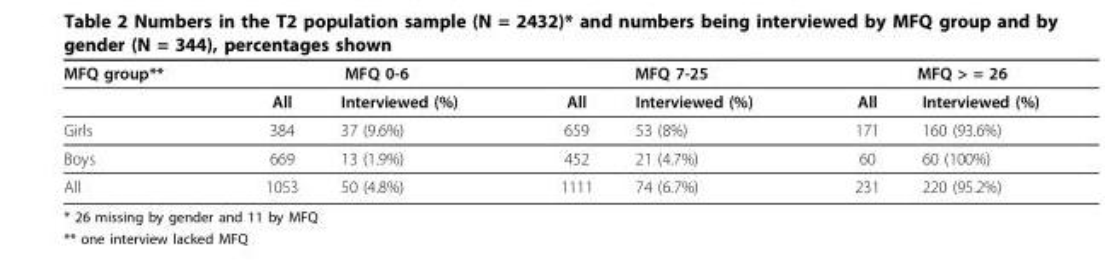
<table><thead><tr><td rowspan="2">MFQ group**</td><td colspan="2">MFQ 0-6</td><td colspan="2">MFQ 7-25</td><td colspan="2">MFQ &gt; = 26</td></tr><tr><td>All</td><td>Interviewed (%)</td><td>All</td><td>Interviewed (%)</td><td>All</td><td>Interviewed (%)</td></tr></thead><tbody><tr><td>Girls</td><td>384</td><td>37 (9.6%)</td><td>659</td><td>53 (8%)</td><td>171</td><td>160 (93.6%)</td></tr><tr><td>Boys</td><td>669</td><td>13 (1.9%)</td><td>452</td><td>21 (4.7%)</td><td>60</td><td>60 (100%)</td></tr><tr><td>All</td><td>1053</td><td>50 (4.8%)</td><td>1111</td><td>74 (6.7%)</td><td>231</td><td>220 (95.2%)</td></tr></tbody></table>